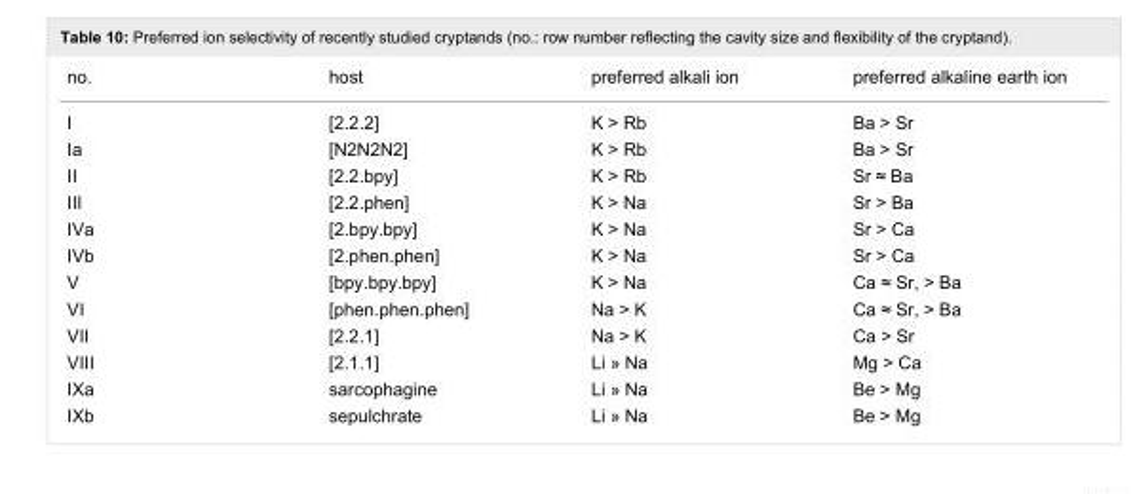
<table><tbody><tr><td>no.</td><td>host</td><td>preferred alkali ion</td><td>preferred alkaline earth ion</td></tr><tr><td>I</td><td>[2.2.2]</td><td>K &gt; Rb</td><td>Ba &gt; Sr</td></tr><tr><td>Ia</td><td>[N2N2N2]</td><td>K &gt; Rb</td><td>Ba &gt; Sr</td></tr><tr><td>II</td><td>[2.2.bpy]</td><td>K &gt; Rb</td><td>Sr ≈ Ba</td></tr><tr><td>III</td><td>[2.2.phen]</td><td>K &gt; Na</td><td>Sr &gt; Ba</td></tr><tr><td>IVa</td><td>[2.bpy.bpy]</td><td>K &gt; Na</td><td>Sr &gt; Ca</td></tr><tr><td>IVb</td><td>[2.phen.phen]</td><td>K &gt; Na</td><td>Sr &gt; Ca</td></tr><tr><td>V</td><td>[bpy.bpy.bpy]</td><td>K &gt; Na</td><td>Ca ≈ Sr, &gt; Ba</td></tr><tr><td>VI</td><td>[phen.phen.phen]</td><td>Na &gt; K</td><td>Ca ≈ Sr, &gt; Ba</td></tr><tr><td>VII</td><td>[2.2.1]</td><td>Na &gt; K</td><td>Ca &gt; Sr</td></tr><tr><td>VIII</td><td>[2.1.1]</td><td>Li » Na</td><td>Mg &gt; Ca</td></tr><tr><td>IXa</td><td>sarcophagine</td><td>Li » Na</td><td>Be &gt; Mg</td></tr><tr><td>IXb</td><td>sepulchrate</td><td>Li » Na</td><td>Be &gt; Mg</td></tr></tbody></table>